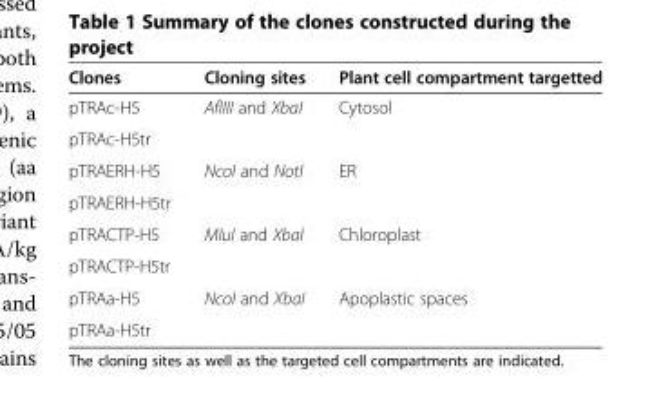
<table><thead><tr><td>Clones</td><td>Cloning sites</td><td>Plant cell compartment targetted</td></tr></thead><tbody><tr><td>pTRAc-H5</td><td>AflIII and XbaI</td><td>Cytosol</td></tr><tr><td colspan="3">pTRAc-H5tr</td></tr><tr><td>pTRAERH-H5</td><td>NcoI and NotI</td><td>ER</td></tr><tr><td colspan="3">pTRAERH-H5tr</td></tr><tr><td>pTRACTP-H5</td><td>MIuI and XbaI</td><td>Chloroplast</td></tr><tr><td colspan="3">pTRACTP-H5tr</td></tr><tr><td>pTRAa-H5</td><td>NcoI and XbaI</td><td>Apoplastic spaces</td></tr><tr><td>pTRAa-H5tr</td><td></td><td></td></tr></tbody></table>